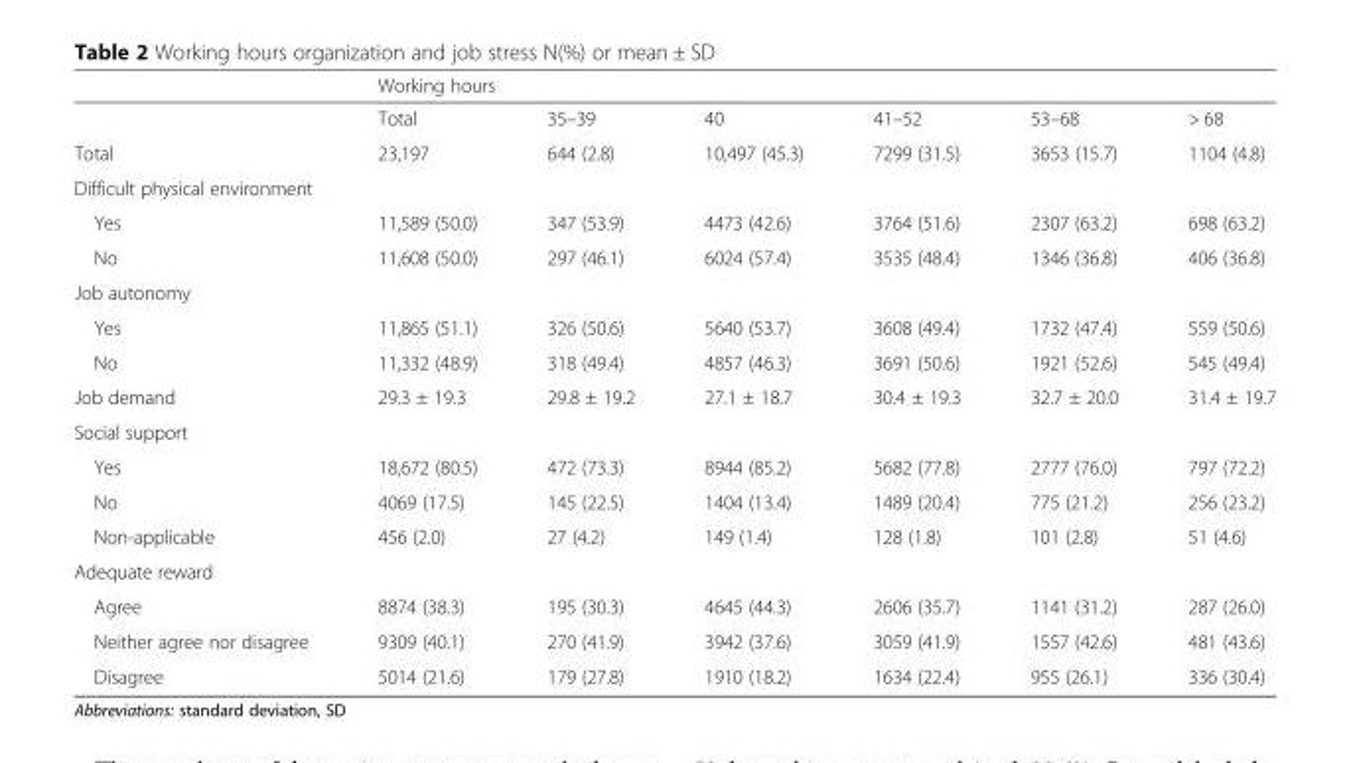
<table><thead><tr><td rowspan="2"></td><td colspan="6">Working hours</td></tr><tr><td>Total</td><td>35–39</td><td>40</td><td>41–52</td><td>53–68</td><td>&gt; 68</td></tr></thead><tbody><tr><td>Total</td><td>23,197</td><td>644 (2.8)</td><td>10,497 (45.3)</td><td>7299 (31.5)</td><td>3653 (15.7)</td><td>1104 (4.8)</td></tr><tr><td colspan="7">Difficult physical environment</td></tr><tr><td>Yes</td><td>11,589 (50.0)</td><td>347 (53.9)</td><td>4473 (42.6)</td><td>3764 (51.6)</td><td>2307 (63.2)</td><td>698 (63.2)</td></tr><tr><td>No</td><td>11,608 (50.0)</td><td>297 (46.1)</td><td>6024 (57.4)</td><td>3535 (48.4)</td><td>1346 (36.8)</td><td>406 (36.8)</td></tr><tr><td colspan="7">Job autonomy</td></tr><tr><td>Yes</td><td>11,865 (51.1)</td><td>326 (50.6)</td><td>5640 (53.7)</td><td>3608 (49.4)</td><td>1732 (47.4)</td><td>559 (50.6)</td></tr><tr><td>No</td><td>11,332 (48.9)</td><td>318 (49.4)</td><td>4857 (46.3)</td><td>3691 (50.6)</td><td>1921 (52.6)</td><td>545 (49.4)</td></tr><tr><td>Job demand</td><td>29.3 ± 19.3</td><td>29.8 ± 19.2</td><td>27.1 ± 18.7</td><td>30.4 ± 19.3</td><td>32.7 ± 20.0</td><td>31.4 ± 19.7</td></tr><tr><td colspan="7">Social support</td></tr><tr><td>Yes</td><td>18,672 (80.5)</td><td>472 (73.3)</td><td>8944 (85.2)</td><td>5682 (77.8)</td><td>2777 (76.0)</td><td>797 (72.2)</td></tr><tr><td>No</td><td>4069 (17.5)</td><td>145 (22.5)</td><td>1404 (13.4)</td><td>1489 (20.4)</td><td>775 (21.2)</td><td>256 (23.2)</td></tr><tr><td>Non-applicable</td><td>456 (2.0)</td><td>27 (4.2)</td><td>149 (1.4)</td><td>128 (1.8)</td><td>101 (2.8)</td><td>51 (4.6)</td></tr><tr><td colspan="7">Adequate reward</td></tr><tr><td>Agree</td><td>8874 (38.3)</td><td>195 (30.3)</td><td>4645 (44.3)</td><td>2606 (35.7)</td><td>1141 (31.2)</td><td>287 (26.0)</td></tr><tr><td>Neither agree nor disagree</td><td>9309 (40.1)</td><td>270 (41.9)</td><td>3942 (37.6)</td><td>3059 (41.9)</td><td>1557 (42.6)</td><td>481 (43.6)</td></tr><tr><td>Disagree</td><td>5014 (21.6)</td><td>179 (27.8)</td><td>1910 (18.2)</td><td>1634 (22.4)</td><td>955 (26.1)</td><td>336 (30.4)</td></tr></tbody></table>